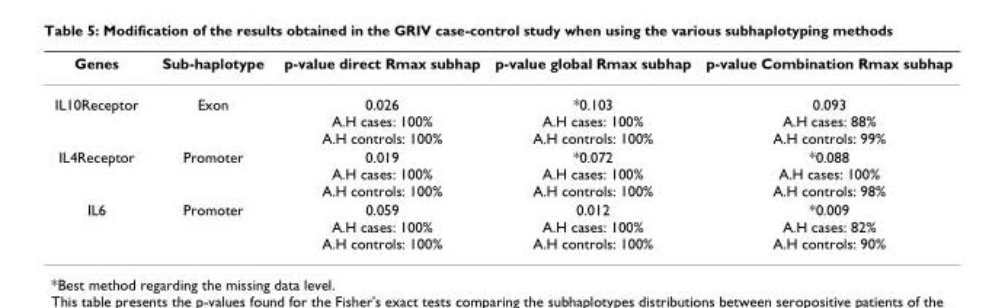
<table><thead><tr><td>Genes</td><td>Sub-haplotype</td><td>p-value direct Rmax subhap</td><td>p-value global Rmax subhap</td><td>p-value Combination Rmax subhap</td></tr></thead><tbody><tr><td>IL10Receptor</td><td>Exon</td><td>0.026 A.H cases: 100% A.H controls: 100%</td><td>*0.103 A.H cases: 100% A.H controls: 100%</td><td>0.093 A.H cases: 88% A.H controls: 99%</td></tr><tr><td>IL4Receptor</td><td>Promoter</td><td>0.019 A.H cases: 100% A.H controls: 100%</td><td>*0.072 A.H cases: 100% A.H controls: 100%</td><td>*0.088 A.H cases: 100% A.H controls: 98%</td></tr><tr><td>IL6</td><td>Promoter</td><td>0.059 A.H cases: 100% A.H controls: 100%</td><td>0.012 A.H cases: 100% A.H controls: 100%</td><td>*0.009 A.H cases: 82% A.H controls: 90%</td></tr></tbody></table>